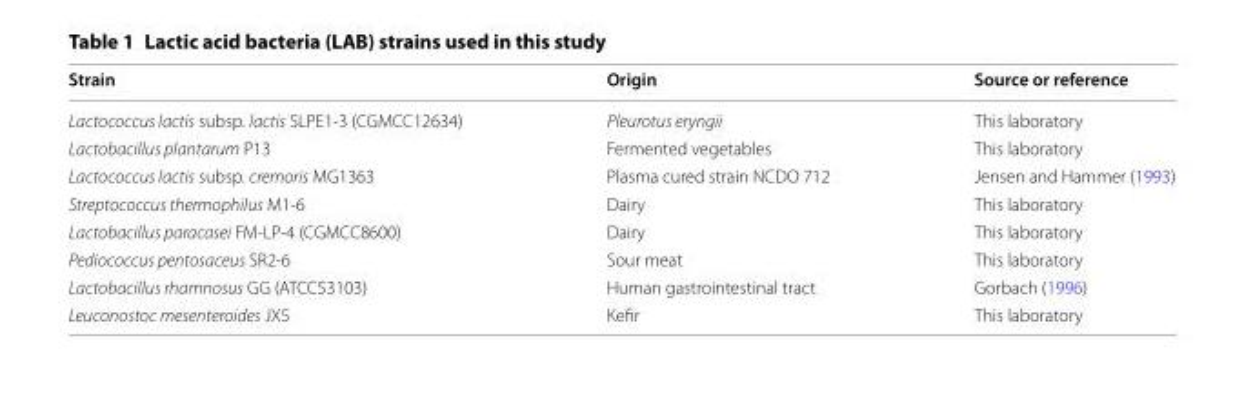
<table><thead><tr><td>Strain</td><td>Origin</td><td>Source or reference</td></tr></thead><tbody><tr><td>Lactococcus lactis subsp. lactis SLPE1-3 (CGMCC12634)</td><td>Pleurotus eryngii</td><td>This laboratory</td></tr><tr><td>Lactobacillus plantarum P13</td><td>Fermented vegetables</td><td>This laboratory</td></tr><tr><td>Lactococcus lactis subsp. cremoris MG1363</td><td>Plasma cured strain NCDO 712</td><td>Jensen and Hammer (1993)</td></tr><tr><td>Streptococcus thermophilus M1-6</td><td>Dairy</td><td>This laboratory</td></tr><tr><td>Lactobacillus paracasei FM-LP-4 (CGMCC8600)</td><td>Dairy</td><td>This laboratory</td></tr><tr><td>Pediococcus pentosaceus SR2-6</td><td>Sour meat</td><td>This laboratory</td></tr><tr><td>Lactobacillus rhamnosus GG (ATCC53103)</td><td>Human gastrointestinal tract</td><td>Gorbach (1996)</td></tr><tr><td>Leuconostoc mesenteroides JX5</td><td>Kefir</td><td>This laboratory</td></tr></tbody></table>